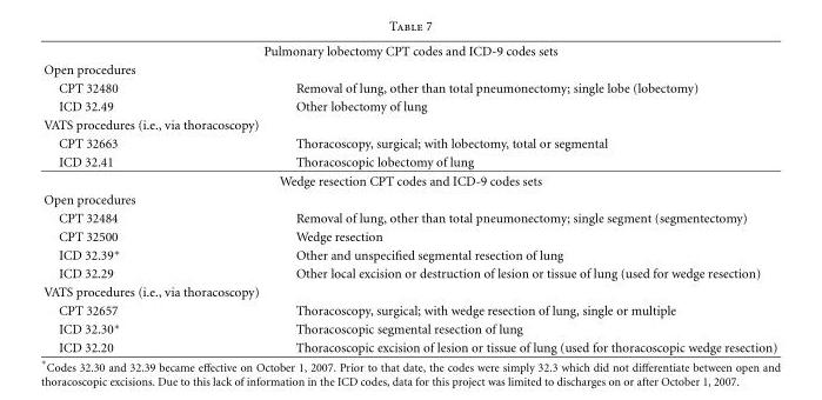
<table><tbody><tr><td colspan="2">Pulmonary lobectomy CPT codes and ICD-9 codes sets</td></tr><tr><td colspan="2">Open procedures</td></tr><tr><td>CPT 32480</td><td>Removal of lung, other than total pneumonectomy; single lobe (lobectomy)</td></tr><tr><td>ICD 32.49</td><td>Other lobectomy of lung</td></tr><tr><td colspan="2">VATS procedures (i.e., via thoracoscopy)</td></tr><tr><td>CPT 32663</td><td>Thoracoscopy, surgical; with lobectomy, total or segmental</td></tr><tr><td>ICD 32.41</td><td>Thoracoscopic lobectomy of lung</td></tr><tr><td colspan="2">Wedge resection CPT codes and ICD-9 codes sets</td></tr><tr><td colspan="2">Open procedures</td></tr><tr><td>CPT 32484</td><td>Removal of lung, other than total pneumonectomy; single segment (segmentectomy)</td></tr><tr><td>CPT 32500</td><td>Wedge resection</td></tr><tr><td>ICD 32.39∗</td><td>Other and unspecified segmental resection of lung</td></tr><tr><td>ICD 32.29</td><td>Other local excision or destruction of lesion or tissue of lung (used for wedge resection)</td></tr><tr><td colspan="2">VATS procedures (i.e., via thoracoscopy)</td></tr><tr><td>CPT 32657</td><td>Thoracoscopy, surgical; with wedge resection of lung, single or multiple</td></tr><tr><td>ICD 32.30∗</td><td>Thoracoscopic segmental resection of lung</td></tr><tr><td>ICD 32.20</td><td>Thoracoscopic excision of lesion or tissue of lung (used for thoracoscopic wedge resection)</td></tr></tbody></table>